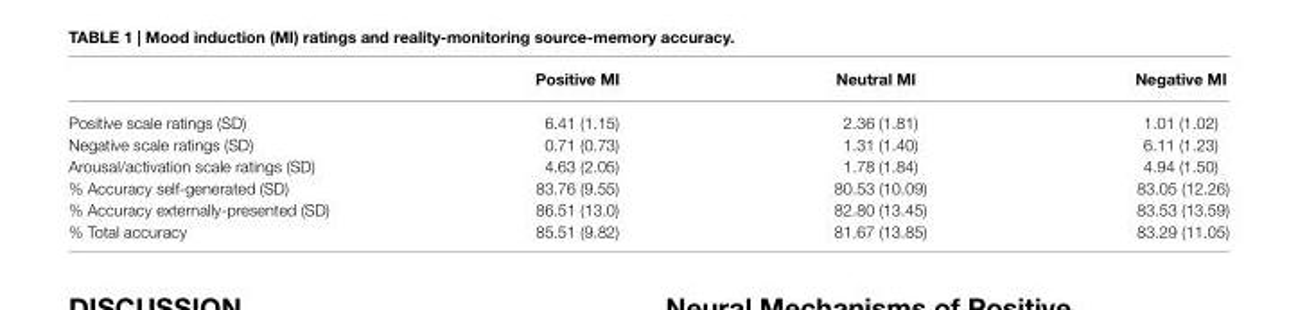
<table><thead><tr><td></td><td>Positive MI</td><td>Neutral MI</td><td>Negative MI</td></tr></thead><tbody><tr><td>Positive scale ratings (SD)</td><td>6.41 (1.15)</td><td>2.36 (1.81)</td><td>1.01 (1.02)</td></tr><tr><td>Negative scale ratings (SD)</td><td>0.71 (0.73)</td><td>1.31 (1.40)</td><td>6.11 (1.23)</td></tr><tr><td>Arousal/activation scale ratings (SD)</td><td>4.63 (2.05)</td><td>1.78 (1.84)</td><td>4.94 (1.50)</td></tr><tr><td>% Accuracy self-generated (SD)</td><td>83.76 (9.55)</td><td>80.53 (10.09)</td><td>83.05 (12.26)</td></tr><tr><td>% Accuracy externally-presented (SD)</td><td>86.51 (13.0)</td><td>82.80 (13.45)</td><td>83.53 (13.59)</td></tr><tr><td>% Total accuracy</td><td>85.51 (9.82)</td><td>81.67 (13.85)</td><td>83.29 (11.05)</td></tr></tbody></table>